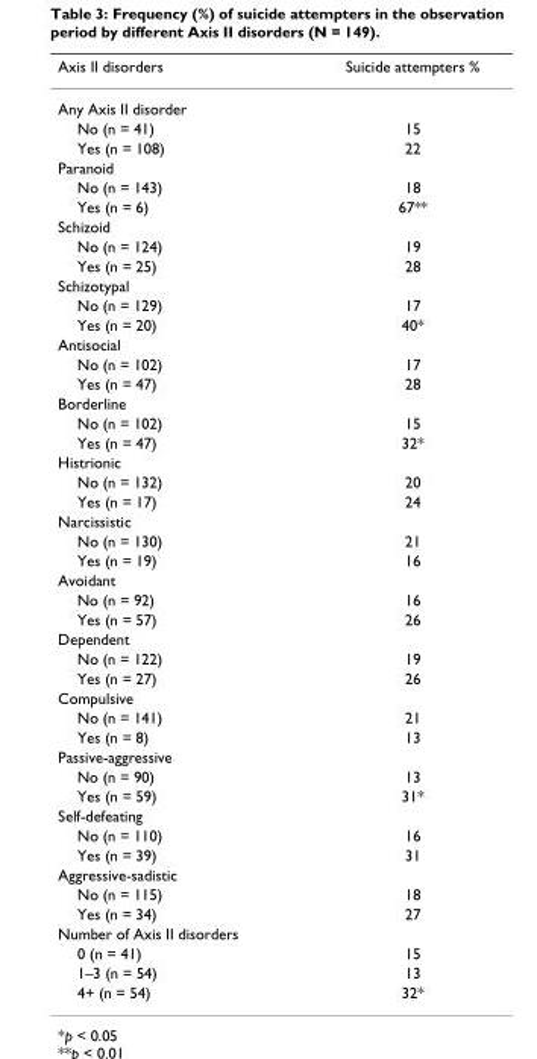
<table><thead><tr><td>Axis II disorders</td><td>Suicide attempters %</td></tr></thead><tbody><tr><td colspan="2">Any Axis II disorder</td></tr><tr><td>No (n = 41)</td><td>15</td></tr><tr><td>Yes (n = 108)</td><td>22</td></tr><tr><td colspan="2">Paranoid</td></tr><tr><td>No (n = 143)</td><td>18</td></tr><tr><td>Yes (n = 6)</td><td>67**</td></tr><tr><td colspan="2">Schizoid</td></tr><tr><td>No (n = 124)</td><td>19</td></tr><tr><td>Yes (n = 25)</td><td>28</td></tr><tr><td colspan="2">Schizotypal</td></tr><tr><td>No (n = 129)</td><td>17</td></tr><tr><td>Yes (n = 20)</td><td>40*</td></tr><tr><td colspan="2">Antisocial</td></tr><tr><td>No (n = 102)</td><td>17</td></tr><tr><td>Yes (n = 47)</td><td>28</td></tr><tr><td colspan="2">Borderline</td></tr><tr><td>No (n = 102)</td><td>15</td></tr><tr><td>Yes (n = 47)</td><td>32*</td></tr><tr><td colspan="2">Histrionic</td></tr><tr><td>No (n = 132)</td><td>20</td></tr><tr><td>Yes (n = 17)</td><td>24</td></tr><tr><td colspan="2">Narcissistic</td></tr><tr><td>No (n = 130)</td><td>21</td></tr><tr><td>Yes (n = 19)</td><td>16</td></tr><tr><td colspan="2">Avoidant</td></tr><tr><td>No (n = 92)</td><td>16</td></tr><tr><td>Yes (n = 57)</td><td>26</td></tr><tr><td colspan="2">Dependent</td></tr><tr><td>No (n = 122)</td><td>19</td></tr><tr><td>Yes (n = 27)</td><td>26</td></tr><tr><td colspan="2">Compulsive</td></tr><tr><td>No (n = 141)</td><td>21</td></tr><tr><td>Yes (n = 8)</td><td>13</td></tr><tr><td colspan="2">Passive-aggressive</td></tr><tr><td>No (n = 90)</td><td>13</td></tr><tr><td>Yes (n = 59)</td><td>31*</td></tr><tr><td colspan="2">Self-defeating</td></tr><tr><td>No (n = 110)</td><td>16</td></tr><tr><td>Yes (n = 39)</td><td>31</td></tr><tr><td colspan="2">Aggressive-sadistic</td></tr><tr><td>No (n = 115)</td><td>18</td></tr><tr><td>Yes (n = 34)</td><td>27</td></tr><tr><td colspan="2">Number of Axis II disorders</td></tr><tr><td>0 (n = 41)</td><td>15</td></tr><tr><td>1–3 (n = 54)</td><td>13</td></tr><tr><td>4+ (n = 54)</td><td>32*</td></tr></tbody></table>